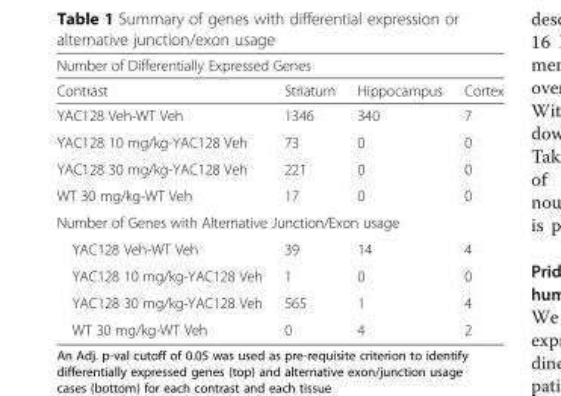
<table><thead><tr><td colspan="4">Number of Differentially Expressed Genes</td></tr><tr><td>Contrast</td><td>Striatum</td><td>Hippocampus</td><td>Cortex</td></tr></thead><tbody><tr><td>YAC128 Veh-WT Veh</td><td>1346</td><td>340</td><td>7</td></tr><tr><td>YAC128 10 mg/kg-YAC128 Veh</td><td>73</td><td>0</td><td>0</td></tr><tr><td>YAC128 30 mg/kg-YAC128 Veh</td><td>221</td><td>0</td><td>0</td></tr><tr><td>WT 30 mg/kg-WT Veh</td><td>17</td><td>0</td><td>0</td></tr><tr><td colspan="4">Number of Genes with Alternative Junction/Exon usage</td></tr><tr><td>YAC128 Veh-WT Veh</td><td>39</td><td>14</td><td>4</td></tr><tr><td>YAC128 10 mg/kg-YAC128 Veh</td><td>1</td><td>0</td><td>0</td></tr><tr><td>YAC128 30 mg/kg-YAC128 Veh</td><td>565</td><td>1</td><td>4</td></tr><tr><td>WT 30 mg/kg-WT Veh</td><td>0</td><td>4</td><td>2</td></tr></tbody></table>